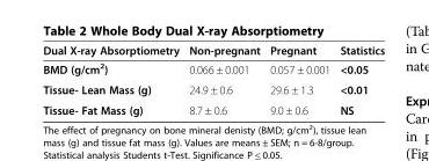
<table><thead><tr><td>Dual X-ray Absorptiometry</td><td>Non-pregnant</td><td>Pregnant</td><td>Statistics</td></tr></thead><tbody><tr><td>BMD (g/cm<sup>2</sup>)</td><td>0.066 ± 0.001</td><td>0.057 ± 0.001</td><td>&lt;0.05</td></tr><tr><td>Tissue- Lean Mass (g)</td><td>24.9 ± 0.6</td><td>29.6 ± 1.3</td><td>&lt;0.01</td></tr><tr><td>Tissue- Fat Mass (g)</td><td>8.7 ± 0.6</td><td>9.0 ± 0.6</td><td>NS</td></tr></tbody></table>